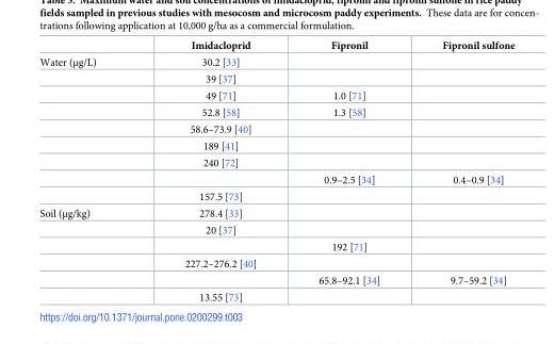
<table><thead><tr><td></td><td>Imidacloprid</td><td>Fipronil</td><td>Fipronil sulfone</td></tr></thead><tbody><tr><td rowspan="9">Water (μg/L)</td><td>30.2 [33]</td><td></td><td></td></tr><tr><td>39 [37]</td><td></td><td></td></tr><tr><td>49 [71]</td><td>1.0 [71]</td><td></td></tr><tr><td>52.8 [58]</td><td>1.3 [58]</td><td></td></tr><tr><td>58.6–73.9 [40]</td><td></td><td></td></tr><tr><td>189 [41]</td><td></td><td></td></tr><tr><td>240 [72]</td><td></td><td></td></tr><tr><td></td><td>0.9–2.5 [34]</td><td>0.4–0.9 [34]</td></tr><tr><td>157.5 [73]</td><td></td><td></td></tr><tr><td rowspan="6">Soil (μg/kg)</td><td>278.4 [33]</td><td></td><td></td></tr><tr><td>20 [37]</td><td></td><td></td></tr><tr><td></td><td>192 [71]</td><td></td></tr><tr><td>227.2–276.2 [40]</td><td></td><td></td></tr><tr><td></td><td>65.8–92.1 [34]</td><td>9.7–59.2 [34]</td></tr><tr><td>13.55 [73]</td><td></td><td></td></tr></tbody></table>